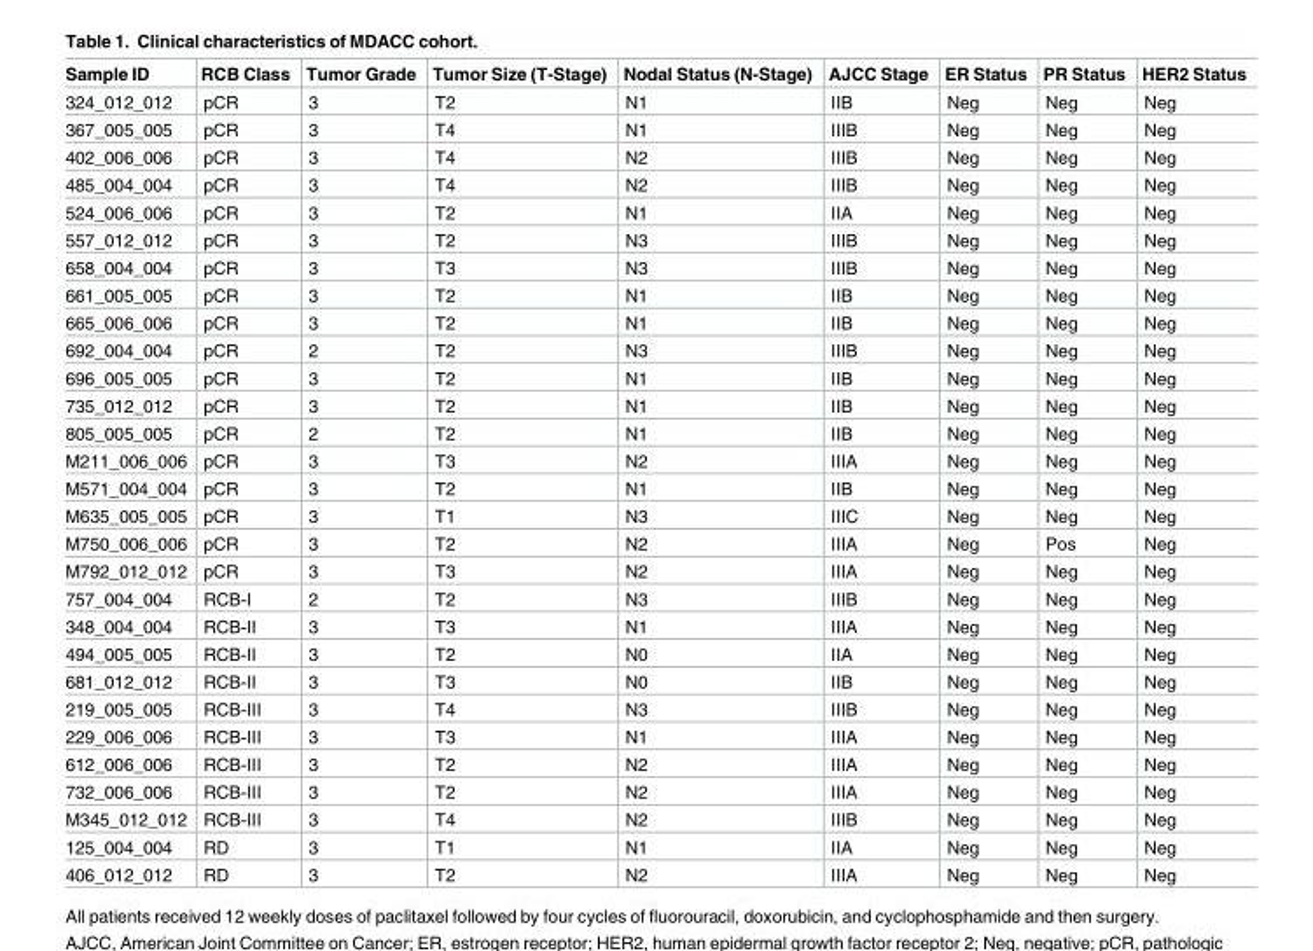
<table><thead><tr><td>Sample ID</td><td>RCB Class</td><td>Tumor Grade</td><td>Tumor Size (T-Stage)</td><td>Nodal Status (N-Stage)</td><td>AJCC Stage</td><td>ER Status</td><td>PR Status</td><td>HER2 Status</td></tr></thead><tbody><tr><td>324_012_012</td><td>pCR</td><td>3</td><td>T2</td><td>N1</td><td>IIB</td><td>Neg</td><td>Neg</td><td>Neg</td></tr><tr><td>367_005_005</td><td>pCR</td><td>3</td><td>T4</td><td>N1</td><td>IIIB</td><td>Neg</td><td>Neg</td><td>Neg</td></tr><tr><td>402_006_006</td><td>pCR</td><td>3</td><td>T4</td><td>N2</td><td>IIIB</td><td>Neg</td><td>Neg</td><td>Neg</td></tr><tr><td>485_004_004</td><td>pCR</td><td>3</td><td>T4</td><td>N2</td><td>IIIB</td><td>Neg</td><td>Neg</td><td>Neg</td></tr><tr><td>524_006_006</td><td>pCR</td><td>3</td><td>T2</td><td>N1</td><td>IIA</td><td>Neg</td><td>Neg</td><td>Neg</td></tr><tr><td>557_012_012</td><td>pCR</td><td>3</td><td>T2</td><td>N3</td><td>IIIB</td><td>Neg</td><td>Neg</td><td>Neg</td></tr><tr><td>658_004_004</td><td>pCR</td><td>3</td><td>T3</td><td>N3</td><td>IIIB</td><td>Neg</td><td>Neg</td><td>Neg</td></tr><tr><td>661_005_005</td><td>pCR</td><td>3</td><td>T2</td><td>N1</td><td>IIB</td><td>Neg</td><td>Neg</td><td>Neg</td></tr><tr><td>665_006_006</td><td>pCR</td><td>3</td><td>T2</td><td>N1</td><td>IIB</td><td>Neg</td><td>Neg</td><td>Neg</td></tr><tr><td>692_004_004</td><td>pCR</td><td>2</td><td>T2</td><td>N3</td><td>IIIB</td><td>Neg</td><td>Neg</td><td>Neg</td></tr><tr><td>696_005_005</td><td>pCR</td><td>3</td><td>T2</td><td>N1</td><td>IIB</td><td>Neg</td><td>Neg</td><td>Neg</td></tr><tr><td>735_012_012</td><td>pCR</td><td>3</td><td>T2</td><td>N1</td><td>IIB</td><td>Neg</td><td>Neg</td><td>Neg</td></tr><tr><td>805_005_005</td><td>pCR</td><td>2</td><td>T2</td><td>N1</td><td>IIB</td><td>Neg</td><td>Neg</td><td>Neg</td></tr><tr><td>M211_006_006</td><td>pCR</td><td>3</td><td>T3</td><td>N2</td><td>IIIA</td><td>Neg</td><td>Neg</td><td>Neg</td></tr><tr><td>M571_004_004</td><td>pCR</td><td>3</td><td>T2</td><td>N1</td><td>IIB</td><td>Neg</td><td>Neg</td><td>Neg</td></tr><tr><td>M635_005_005</td><td>pCR</td><td>3</td><td>T1</td><td>N3</td><td>IIIC</td><td>Neg</td><td>Neg</td><td>Neg</td></tr><tr><td>M750_006_006</td><td>pCR</td><td>3</td><td>T2</td><td>N2</td><td>IIIA</td><td>Neg</td><td>Pos</td><td>Neg</td></tr><tr><td>M792_012_012</td><td>pCR</td><td>3</td><td>T3</td><td>N2</td><td>IIIA</td><td>Neg</td><td>Neg</td><td>Neg</td></tr><tr><td>757_004_004</td><td>RCB-I</td><td>2</td><td>T2</td><td>N3</td><td>IIIB</td><td>Neg</td><td>Neg</td><td>Neg</td></tr><tr><td>348_004_004</td><td>RCB-II</td><td>3</td><td>T3</td><td>N1</td><td>IIIA</td><td>Neg</td><td>Neg</td><td>Neg</td></tr><tr><td>494_005_005</td><td>RCB-II</td><td>3</td><td>T2</td><td>N0</td><td>IIA</td><td>Neg</td><td>Neg</td><td>Neg</td></tr><tr><td>681_012_012</td><td>RCB-II</td><td>3</td><td>T3</td><td>N0</td><td>IIB</td><td>Neg</td><td>Neg</td><td>Neg</td></tr><tr><td>219_005_005</td><td>RCB-III</td><td>3</td><td>T4</td><td>N3</td><td>IIIB</td><td>Neg</td><td>Neg</td><td>Neg</td></tr><tr><td>229_006_006</td><td>RCB-III</td><td>3</td><td>T3</td><td>N1</td><td>IIIA</td><td>Neg</td><td>Neg</td><td>Neg</td></tr><tr><td>612_006_006</td><td>RCB-III</td><td>3</td><td>T2</td><td>N2</td><td>IIIA</td><td>Neg</td><td>Neg</td><td>Neg</td></tr><tr><td>732_006_006</td><td>RCB-III</td><td>3</td><td>T2</td><td>N2</td><td>IIIA</td><td>Neg</td><td>Neg</td><td>Neg</td></tr><tr><td>M345_012_012</td><td>RCB-III</td><td>3</td><td>T4</td><td>N2</td><td>IIIB</td><td>Neg</td><td>Neg</td><td>Neg</td></tr><tr><td>125_004_004</td><td>RD</td><td>3</td><td>T1</td><td>N1</td><td>IIA</td><td>Neg</td><td>Neg</td><td>Neg</td></tr><tr><td>406_012_012</td><td>RD</td><td>3</td><td>T2</td><td>N2</td><td>IIIA</td><td>Neg</td><td>Neg</td><td>Neg</td></tr></tbody></table>